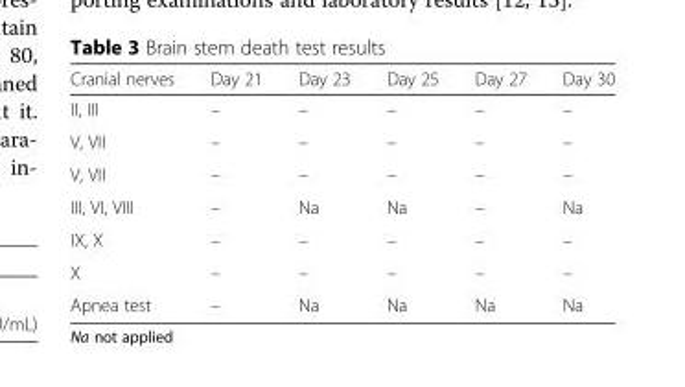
<table><thead><tr><td>Cranial nerves</td><td>Day 21</td><td>Day 23</td><td>Day 25</td><td>Day 27</td><td>Day 30</td></tr></thead><tbody><tr><td>II, III</td><td>–</td><td>–</td><td>–</td><td>–</td><td>–</td></tr><tr><td>V, VII</td><td>–</td><td>–</td><td>–</td><td>–</td><td>–</td></tr><tr><td>V, VII</td><td>–</td><td>–</td><td>–</td><td>–</td><td>–</td></tr><tr><td>III, VI, VIII</td><td>–</td><td>Na</td><td>Na</td><td>–</td><td>Na</td></tr><tr><td>IX, X</td><td>–</td><td>–</td><td>–</td><td>–</td><td>–</td></tr><tr><td>X</td><td>–</td><td>–</td><td>–</td><td>–</td><td>–</td></tr><tr><td>Apnea test</td><td>–</td><td>Na</td><td>Na</td><td>Na</td><td>Na</td></tr></tbody></table>